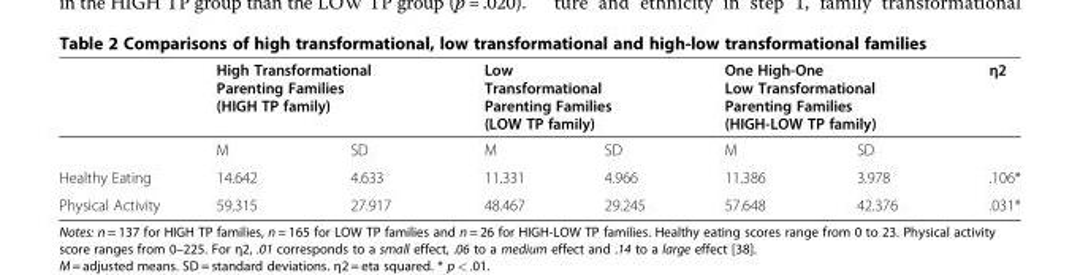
<table><thead><tr><td rowspan="2"></td><td colspan="2">High Transformational Parenting Families (HIGH TP family)</td><td colspan="2">Low Transformational Parenting Families (LOW TP family)</td><td colspan="2">One High-One Low Transformational Parenting Families (HIGH-LOW TP family)</td><td rowspan="2">η2</td></tr><tr><td>M</td><td>SD</td><td>M</td><td>SD</td><td>M</td><td>SD</td></tr></thead><tbody><tr><td>Healthy Eating</td><td>14.642</td><td>4.633</td><td>11.331</td><td>4.966</td><td>11.386</td><td>3.978</td><td>.106*</td></tr><tr><td>Physical Activity</td><td>59.315</td><td>27.917</td><td>48.467</td><td>29.245</td><td>57.648</td><td>42.376</td><td>.031*</td></tr></tbody></table>